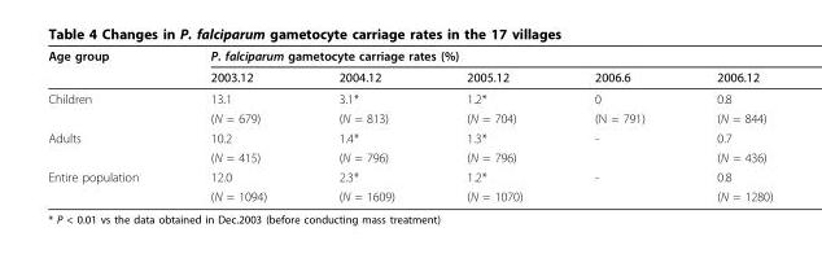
<table><thead><tr><td rowspan="2">Age group</td><td colspan="5">P. falciparum gametocyte carriage rates (%)</td></tr><tr><td>2003.12</td><td>2004.12</td><td>2005.12</td><td>2006.6</td><td>2006.12</td></tr></thead><tbody><tr><td rowspan="2">Children</td><td>13.1</td><td>3.1*</td><td>1.2*</td><td>0</td><td>0.8</td></tr><tr><td>(N = 679)</td><td>(N = 813)</td><td>(N = 704)</td><td>(N = 791)</td><td>(N = 844)</td></tr><tr><td rowspan="2">Adults</td><td>10.2</td><td>1.4*</td><td>1.3*</td><td>-</td><td>0.7</td></tr><tr><td>(N = 415)</td><td>(N = 796)</td><td>(N = 796)</td><td></td><td>(N = 436)</td></tr><tr><td rowspan="2">Entire population</td><td>12.0</td><td>2.3*</td><td>1.2*</td><td>-</td><td>0.8</td></tr><tr><td>(N = 1094)</td><td>(N = 1609)</td><td>(N = 1070)</td><td></td><td>(N = 1280)</td></tr></tbody></table>